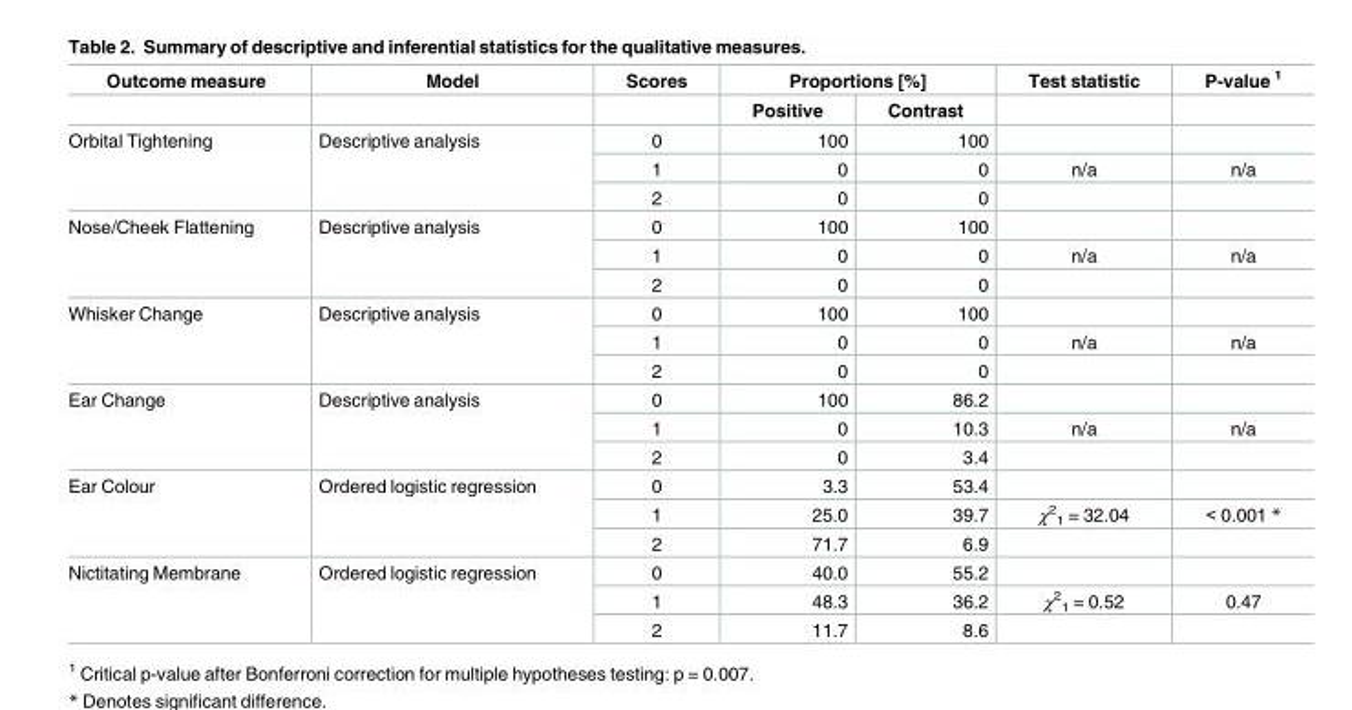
<table><thead><tr><td rowspan="2">Outcome measure</td><td rowspan="2">Model</td><td rowspan="2">Scores</td><td colspan="2">Proportions [%]</td><td rowspan="2">Test statistic</td><td rowspan="2">P-value <sup>1</sup></td></tr><tr><td>Positive</td><td>Contrast</td></tr></thead><tbody><tr><td rowspan="3">Orbital Tightening</td><td rowspan="3">Descriptive analysis</td><td>0</td><td>100</td><td>100</td><td></td><td></td></tr><tr><td>1</td><td>0</td><td>0</td><td>n/a</td><td>n/a</td></tr><tr><td>2</td><td>0</td><td>0</td><td></td><td></td></tr><tr><td rowspan="3">Nose/Cheek Flattening</td><td rowspan="3">Descriptive analysis</td><td>0</td><td>100</td><td>100</td><td></td><td></td></tr><tr><td>1</td><td>0</td><td>0</td><td>n/a</td><td>n/a</td></tr><tr><td>2</td><td>0</td><td>0</td><td></td><td></td></tr><tr><td rowspan="3">Whisker Change</td><td rowspan="3">Descriptive analysis</td><td>0</td><td>100</td><td>100</td><td></td><td></td></tr><tr><td>1</td><td>0</td><td>0</td><td>n/a</td><td>n/a</td></tr><tr><td>2</td><td>0</td><td>0</td><td></td><td></td></tr><tr><td rowspan="3">Ear Change</td><td rowspan="3">Descriptive analysis</td><td>0</td><td>100</td><td>86.2</td><td></td><td></td></tr><tr><td>1</td><td>0</td><td>10.3</td><td>n/a</td><td>n/a</td></tr><tr><td>2</td><td>0</td><td>3.4</td><td></td><td></td></tr><tr><td rowspan="3">Ear Colour</td><td rowspan="3">Ordered logistic regression</td><td>0</td><td>3.3</td><td>53.4</td><td></td><td></td></tr><tr><td>1</td><td>25.0</td><td>39.7</td><td>χ<sup>2</sup> <sub>1</sub> = 32.04</td><td>&lt; 0.001 *</td></tr><tr><td>2</td><td>71.7</td><td>6.9</td><td></td><td></td></tr><tr><td rowspan="3">Nictitating Membrane</td><td rowspan="3">Ordered logistic regression</td><td>0</td><td>40.0</td><td>55.2</td><td></td><td></td></tr><tr><td>1</td><td>48.3</td><td>36.2</td><td>χ<sup>2</sup> <sub>1</sub> = 0.52</td><td>0.47</td></tr><tr><td>2</td><td>11.7</td><td>8.6</td><td></td><td></td></tr></tbody></table>